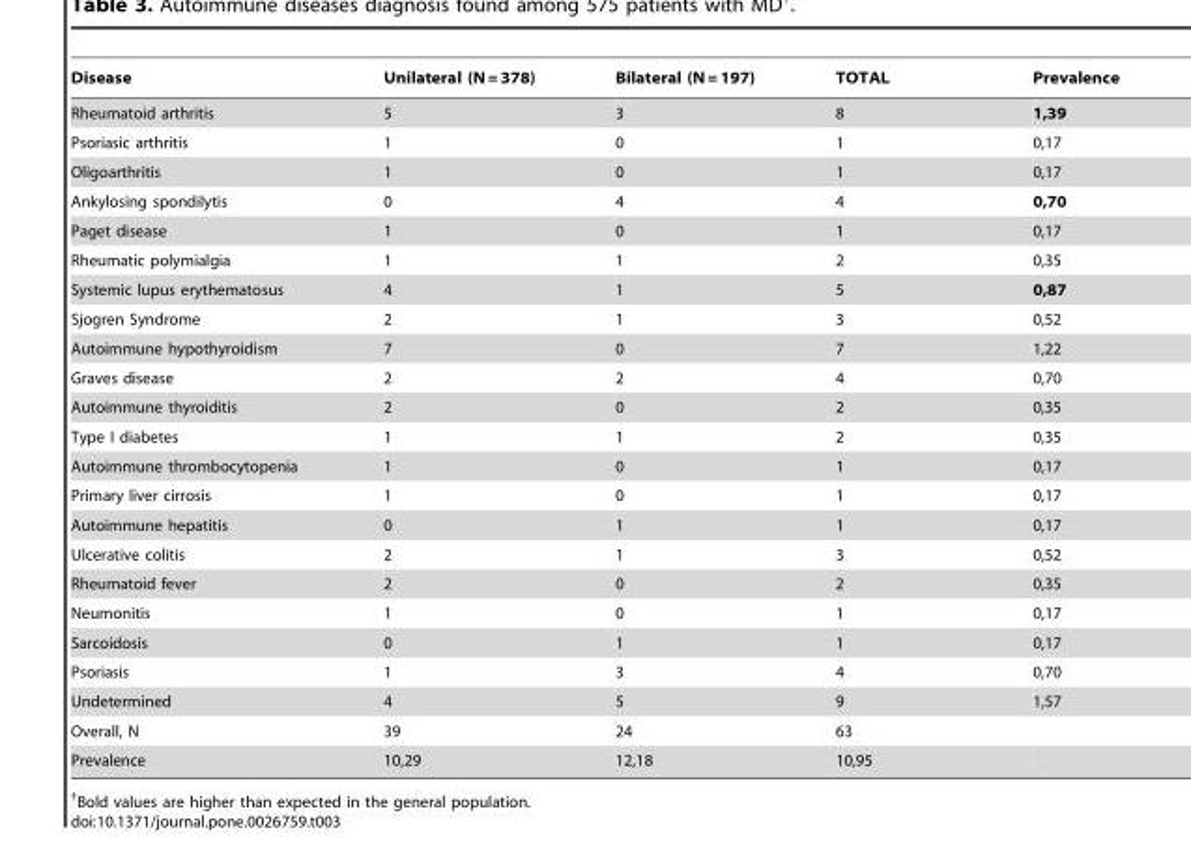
<table><thead><tr><td>Disease</td><td>Unilateral (N = 378)</td><td>Bilateral (N = 197)</td><td>TOTAL</td><td>Prevalence</td></tr></thead><tbody><tr><td>Rheumatoid arthritis</td><td>5</td><td>3</td><td>8</td><td>1,39</td></tr><tr><td>Psoriasic arthritis</td><td>1</td><td>0</td><td>1</td><td>0,17</td></tr><tr><td>Oligoarthritis</td><td>1</td><td>0</td><td>1</td><td>0,17</td></tr><tr><td>Ankylosing spondilytis</td><td>0</td><td>4</td><td>4</td><td>0,70</td></tr><tr><td>Paget disease</td><td>1</td><td>0</td><td>1</td><td>0,17</td></tr><tr><td>Rheumatic polymialgia</td><td>1</td><td>1</td><td>2</td><td>0,35</td></tr><tr><td>Systemic lupus erythematosus</td><td>4</td><td>1</td><td>5</td><td>0,87</td></tr><tr><td>Sjogren Syndrome</td><td>2</td><td>1</td><td>3</td><td>0,52</td></tr><tr><td>Autoimmune hypothyroidism</td><td>7</td><td>0</td><td>7</td><td>1,22</td></tr><tr><td>Graves disease</td><td>2</td><td>2</td><td>4</td><td>0,70</td></tr><tr><td>Autoimmune thyroiditis</td><td>2</td><td>0</td><td>2</td><td>0,35</td></tr><tr><td>Type I diabetes</td><td>1</td><td>1</td><td>2</td><td>0,35</td></tr><tr><td>Autoimmune thrombocytopenia</td><td>1</td><td>0</td><td>1</td><td>0,17</td></tr><tr><td>Primary liver cirrosis</td><td>1</td><td>0</td><td>1</td><td>0,17</td></tr><tr><td>Autoimmune hepatitis</td><td>0</td><td>1</td><td>1</td><td>0,17</td></tr><tr><td>Ulcerative colitis</td><td>2</td><td>1</td><td>3</td><td>0,52</td></tr><tr><td>Rheumatoid fever</td><td>2</td><td>0</td><td>2</td><td>0,35</td></tr><tr><td>Neumonitis</td><td>1</td><td>0</td><td>1</td><td>0,17</td></tr><tr><td>Sarcoidosis</td><td>0</td><td>1</td><td>1</td><td>0,17</td></tr><tr><td>Psoriasis</td><td>1</td><td>3</td><td>4</td><td>0,70</td></tr><tr><td>Undetermined</td><td>4</td><td>5</td><td>9</td><td>1,57</td></tr><tr><td>Overall, N</td><td>39</td><td>24</td><td>63</td><td></td></tr><tr><td>Prevalence</td><td>10,29</td><td>12,18</td><td>10,95</td><td></td></tr></tbody></table>